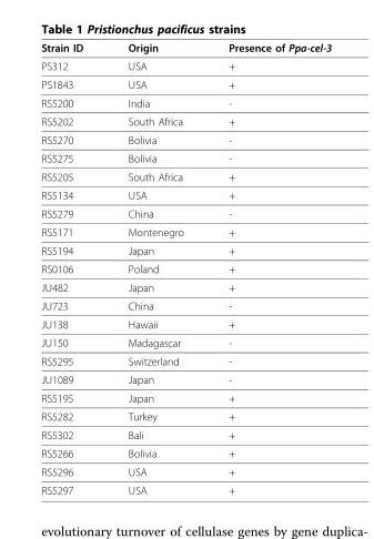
<table><thead><tr><td>Strain ID</td><td>Origin</td><td>Presence of Ppa-cel-3</td></tr></thead><tbody><tr><td>PS312</td><td>USA</td><td>+</td></tr><tr><td>PS1843</td><td>USA</td><td>+</td></tr><tr><td>RS5200</td><td>India</td><td>-</td></tr><tr><td>RS5202</td><td>South Africa</td><td>+</td></tr><tr><td>RS5270</td><td>Bolivia</td><td>-</td></tr><tr><td>RS5275</td><td>Bolivia</td><td>-</td></tr><tr><td>RS5205</td><td>South Africa</td><td>+</td></tr><tr><td>RS5134</td><td>USA</td><td>+</td></tr><tr><td>RS5279</td><td>China</td><td>-</td></tr><tr><td>RS5171</td><td>Montenegro</td><td>+</td></tr><tr><td>RS5194</td><td>Japan</td><td>+</td></tr><tr><td>RS0106</td><td>Poland</td><td>+</td></tr><tr><td>JU482</td><td>Japan</td><td>+</td></tr><tr><td>JU723</td><td>China</td><td>-</td></tr><tr><td>JU138</td><td>Hawaii</td><td>+</td></tr><tr><td>JU150</td><td>Madagascar</td><td>-</td></tr><tr><td>RS5295</td><td>Switzerland</td><td>-</td></tr><tr><td>JU1089</td><td>Japan</td><td>-</td></tr><tr><td>RS5195</td><td>Japan</td><td>+</td></tr><tr><td>RS5282</td><td>Turkey</td><td>+</td></tr><tr><td>RS5302</td><td>Bali</td><td>+</td></tr><tr><td>RS5266</td><td>Bolivia</td><td>+</td></tr><tr><td>RS5296</td><td>USA</td><td>+</td></tr><tr><td>RS5297</td><td>USA</td><td>+</td></tr></tbody></table>